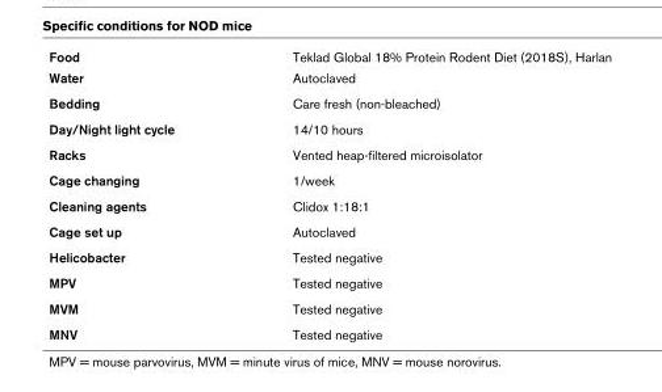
<table><tbody><tr><td>Food</td><td>Teklad Global 18% Protein Rodent Diet (2018S), Harlan</td></tr><tr><td>Water</td><td>Autoclaved</td></tr><tr><td>Bedding</td><td>Care fresh (non-bleached)</td></tr><tr><td>Day/Night light cycle</td><td>14/10 hours</td></tr><tr><td>Racks</td><td>Vented heap-filtered microisolator</td></tr><tr><td>Cage changing</td><td>1/week</td></tr><tr><td>Cleaning agents</td><td>Clidox 1:18:1</td></tr><tr><td>Cage set up</td><td>Autoclaved</td></tr><tr><td>Helicobacter</td><td>Tested negative</td></tr><tr><td>MPV</td><td>Tested negative</td></tr><tr><td>MVM</td><td>Tested negative</td></tr><tr><td>MNV</td><td>Tested negative</td></tr></tbody></table>